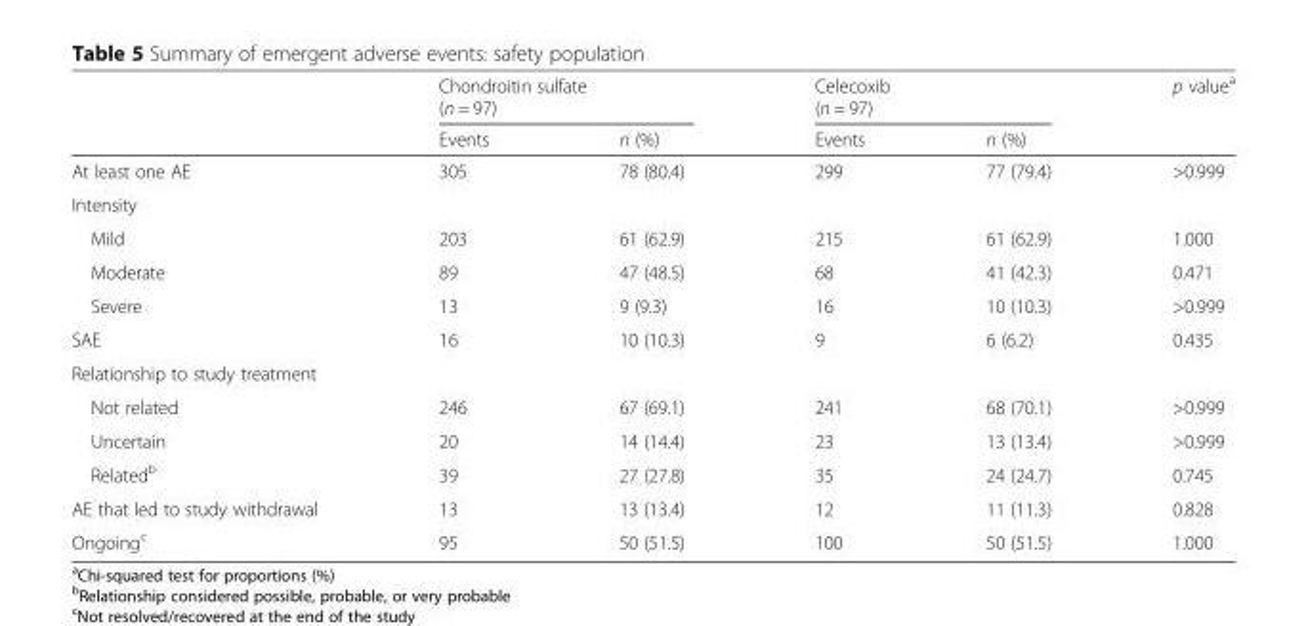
<table><thead><tr><td rowspan="2"></td><td colspan="2">Chondroitin sulfate (n = 97)</td><td colspan="2">Celecoxib (n = 97)</td><td rowspan="2">p value<sup>a</sup></td></tr><tr><td>Events</td><td>n (%)</td><td>Events</td><td>n (%)</td></tr></thead><tbody><tr><td>At least one AE</td><td>305</td><td>78 (80.4)</td><td>299</td><td>77 (79.4)</td><td>&gt;0.999</td></tr><tr><td colspan="6">Intensity</td></tr><tr><td>Mild</td><td>203</td><td>61 (62.9)</td><td>215</td><td>61 (62.9)</td><td>1.000</td></tr><tr><td>Moderate</td><td>89</td><td>47 (48.5)</td><td>68</td><td>41 (42.3)</td><td>0.471</td></tr><tr><td>Severe</td><td>13</td><td>9 (9.3)</td><td>16</td><td>10 (10.3)</td><td>&gt;0.999</td></tr><tr><td>SAE</td><td>16</td><td>10 (10.3)</td><td>9</td><td>6 (6.2)</td><td>0.435</td></tr><tr><td colspan="6">Relationship to study treatment</td></tr><tr><td>Not related</td><td>246</td><td>67 (69.1)</td><td>241</td><td>68 (70.1)</td><td>&gt;0.999</td></tr><tr><td>Uncertain</td><td>20</td><td>14 (14.4)</td><td>23</td><td>13 (13.4)</td><td>&gt;0.999</td></tr><tr><td>Related<sup>b</sup></td><td>39</td><td>27 (27.8)</td><td>35</td><td>24 (24.7)</td><td>0.745</td></tr><tr><td>AE that led to study withdrawal</td><td>13</td><td>13 (13.4)</td><td>12</td><td>11 (11.3)</td><td>0.828</td></tr><tr><td>Ongoing<sup>c</sup></td><td>95</td><td>50 (51.5)</td><td>100</td><td>50 (51.5)</td><td>1.000</td></tr></tbody></table>